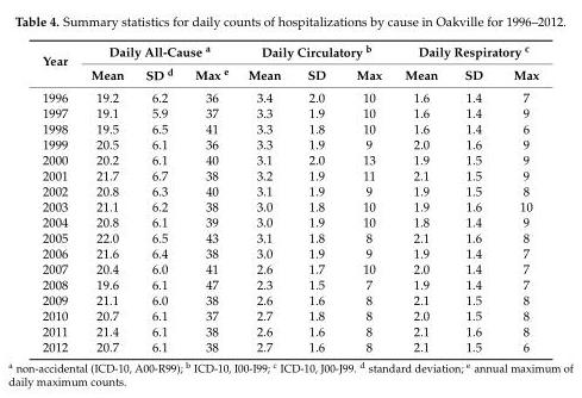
<table><thead><tr><td rowspan="2">Year</td><td colspan="3">Daily All-Cause <sup>a</sup></td><td colspan="3">Daily Circulatory <sup>b</sup></td><td colspan="3">Daily Respiratory <sup>c</sup></td></tr><tr><td>Mean</td><td>SD <sup>d</sup></td><td>Max <sup>e</sup></td><td>Mean</td><td>SD</td><td>Max</td><td>Mean</td><td>SD</td><td>Max</td></tr></thead><tbody><tr><td>1996</td><td>19.2</td><td>6.2</td><td>36</td><td>3.4</td><td>2.0</td><td>10</td><td>1.6</td><td>1.4</td><td>7</td></tr><tr><td>1997</td><td>19.1</td><td>5.9</td><td>37</td><td>3.3</td><td>1.9</td><td>10</td><td>1.6</td><td>1.4</td><td>9</td></tr><tr><td>1998</td><td>19.5</td><td>6.5</td><td>41</td><td>3.3</td><td>1.8</td><td>10</td><td>1.6</td><td>1.4</td><td>6</td></tr><tr><td>1999</td><td>20.5</td><td>6.1</td><td>36</td><td>3.3</td><td>1.9</td><td>9</td><td>2.0</td><td>1.6</td><td>9</td></tr><tr><td>2000</td><td>20.2</td><td>6.1</td><td>40</td><td>3.1</td><td>2.0</td><td>13</td><td>1.9</td><td>1.5</td><td>9</td></tr><tr><td>2001</td><td>21.7</td><td>6.7</td><td>38</td><td>3.2</td><td>1.9</td><td>11</td><td>2.1</td><td>1.5</td><td>9</td></tr><tr><td>2002</td><td>20.8</td><td>6.3</td><td>40</td><td>3.1</td><td>1.9</td><td>9</td><td>1.9</td><td>1.5</td><td>8</td></tr><tr><td>2003</td><td>21.1</td><td>6.2</td><td>38</td><td>3.0</td><td>1.8</td><td>10</td><td>1.9</td><td>1.6</td><td>10</td></tr><tr><td>2004</td><td>20.8</td><td>6.1</td><td>39</td><td>3.0</td><td>1.9</td><td>10</td><td>1.8</td><td>1.4</td><td>9</td></tr><tr><td>2005</td><td>22.0</td><td>6.5</td><td>43</td><td>3.1</td><td>1.8</td><td>8</td><td>2.1</td><td>1.6</td><td>8</td></tr><tr><td>2006</td><td>21.6</td><td>6.4</td><td>38</td><td>3.0</td><td>1.9</td><td>9</td><td>1.9</td><td>1.4</td><td>7</td></tr><tr><td>2007</td><td>20.4</td><td>6.0</td><td>41</td><td>2.6</td><td>1.7</td><td>10</td><td>2.0</td><td>1.4</td><td>7</td></tr><tr><td>2008</td><td>19.6</td><td>6.1</td><td>47</td><td>2.3</td><td>1.5</td><td>7</td><td>1.9</td><td>1.4</td><td>7</td></tr><tr><td>2009</td><td>21.1</td><td>6.0</td><td>38</td><td>2.6</td><td>1.6</td><td>8</td><td>2.1</td><td>1.5</td><td>8</td></tr><tr><td>2010</td><td>20.7</td><td>6.1</td><td>37</td><td>2.7</td><td>1.8</td><td>8</td><td>2.0</td><td>1.5</td><td>8</td></tr><tr><td>2011</td><td>21.4</td><td>6.1</td><td>38</td><td>2.6</td><td>1.6</td><td>8</td><td>2.1</td><td>1.6</td><td>8</td></tr><tr><td>2012</td><td>20.7</td><td>6.1</td><td>38</td><td>2.7</td><td>1.6</td><td>8</td><td>2.1</td><td>1.5</td><td>6</td></tr></tbody></table>